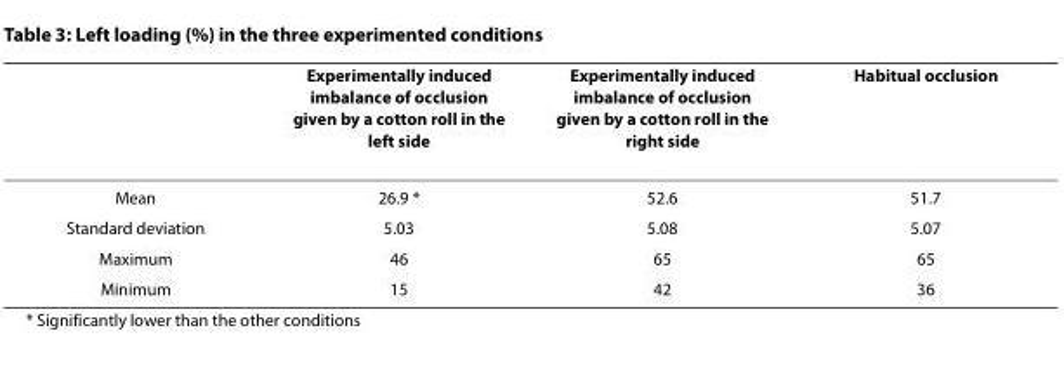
<table><thead><tr><td></td><td>Experimentally induced imbalance of occlusion given by a cotton roll in the left side</td><td>Experimentally induced imbalance of occlusion given by a cotton roll in the right side</td><td>Habitual occlusion</td></tr></thead><tbody><tr><td>Mean</td><td>26.9 *</td><td>52.6</td><td>51.7</td></tr><tr><td>Standard deviation</td><td>5.03</td><td>5.08</td><td>5.07</td></tr><tr><td>Maximum</td><td>46</td><td>65</td><td>65</td></tr><tr><td>Minimum</td><td>15</td><td>42</td><td>36</td></tr></tbody></table>